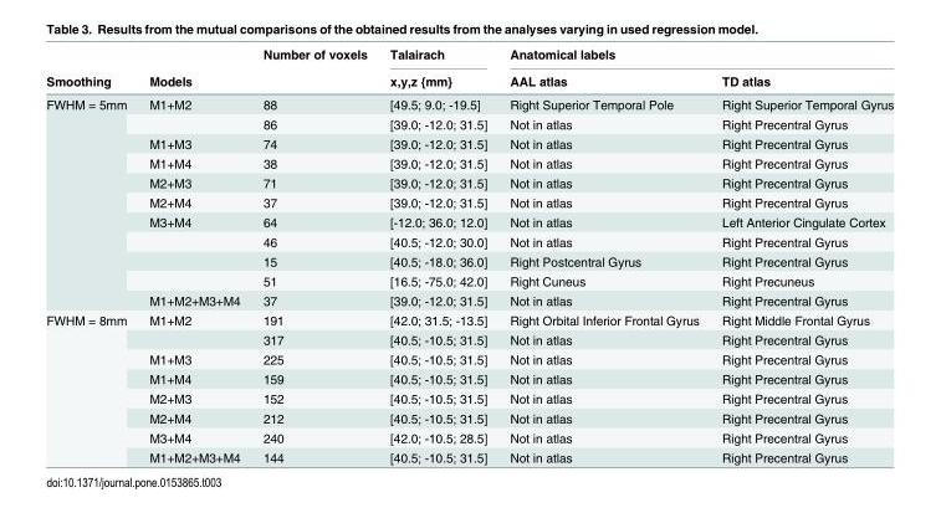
<table><thead><tr><td rowspan="2">Smoothing</td><td rowspan="2">Models</td><td rowspan="2">Number of voxels</td><td rowspan="2">Talairach x,y,z {mm}</td><td colspan="2">Anatomical labels</td></tr><tr><td>AAL atlas</td><td>TD atlas</td></tr></thead><tbody><tr><td rowspan="11">FWHM = 5mm</td><td>M1+M2</td><td>88</td><td>[49.5; 9.0; -19.5]</td><td>Right Superior Temporal Pole</td><td>Right Superior Temporal Gyrus</td></tr><tr><td></td><td>86</td><td>[39.0; -12.0; 31.5]</td><td>Not in atlas</td><td>Right Precentral Gyrus</td></tr><tr><td>M1+M3</td><td>74</td><td>[39.0; -12.0; 31.5]</td><td>Not in atlas</td><td>Right Precentral Gyrus</td></tr><tr><td>M1+M4</td><td>38</td><td>[39.0; -12.0; 31.5]</td><td>Not in atlas</td><td>Right Precentral Gyrus</td></tr><tr><td>M2+M3</td><td>71</td><td>[39.0; -12.0; 31.5]</td><td>Not in atlas</td><td>Right Precentral Gyrus</td></tr><tr><td>M2+M4</td><td>37</td><td>[39.0; -12.0; 31.5]</td><td>Not in atlas</td><td>Right Precentral Gyrus</td></tr><tr><td>M3+M4</td><td>64</td><td>[-12.0; 36.0; 12.0]</td><td>Not in atlas</td><td>Left Anterior Cingulate Cortex</td></tr><tr><td></td><td>46</td><td>[40.5; -12.0; 30.0]</td><td>Not in atlas</td><td>Right Precentral Gyrus</td></tr><tr><td></td><td>15</td><td>[40.5; -18.0; 36.0]</td><td>Right Postcentral Gyrus</td><td>Right Precentral Gyrus</td></tr><tr><td></td><td>51</td><td>[16.5; -75.0; 42.0]</td><td>Right Cuneus</td><td>Right Precuneus</td></tr><tr><td>M1+M2+M3+M4</td><td>37</td><td>[39.0; -12.0; 31.5]</td><td>Not in atlas</td><td>Right Precentral Gyrus</td></tr><tr><td rowspan="8">FWHM = 8mm</td><td>M1+M2</td><td>191</td><td>[42.0; 31.5; -13.5]</td><td>Right Orbital Inferior Frontal Gyrus</td><td>Right Middle Frontal Gyrus</td></tr><tr><td></td><td>317</td><td>[40.5; -10.5; 31.5]</td><td>Not in atlas</td><td>Right Precentral Gyrus</td></tr><tr><td>M1+M3</td><td>225</td><td>[40.5; -10.5; 31.5]</td><td>Not in atlas</td><td>Right Precentral Gyrus</td></tr><tr><td>M1+M4</td><td>159</td><td>[40.5; -10.5; 31.5]</td><td>Not in atlas</td><td>Right Precentral Gyrus</td></tr><tr><td>M2+M3</td><td>152</td><td>[40.5; -10.5; 31.5]</td><td>Not in atlas</td><td>Right Precentral Gyrus</td></tr><tr><td>M2+M4</td><td>212</td><td>[40.5; -10.5; 31.5]</td><td>Not in atlas</td><td>Right Precentral Gyrus</td></tr><tr><td>M3+M4</td><td>240</td><td>[42.0; -10.5; 28.5]</td><td>Not in atlas</td><td>Right Precentral Gyrus</td></tr><tr><td>M1+M2+M3+M4</td><td>144</td><td>[40.5; -10.5; 31.5]</td><td>Not in atlas</td><td>Right Precentral Gyrus</td></tr></tbody></table>